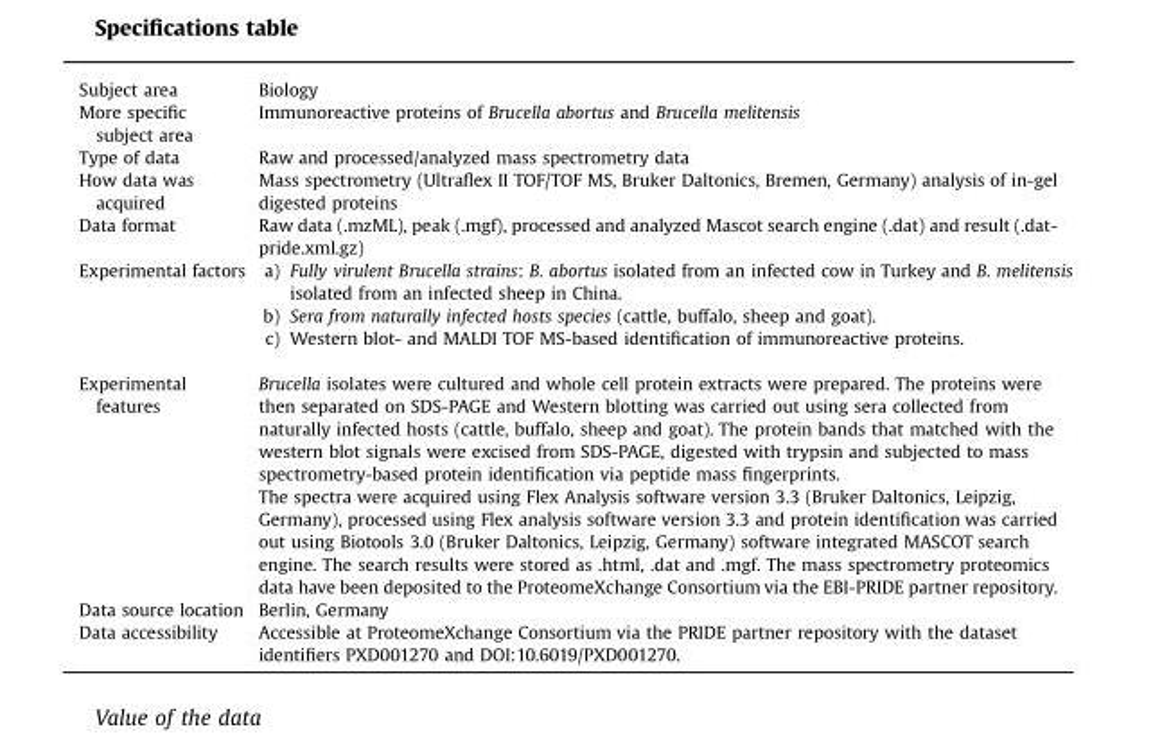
<table><tbody><tr><td>Subject area</td><td>Biology</td></tr><tr><td>More specific subject area</td><td>Immunoreactive proteins of Brucella abortus and Brucella melitensis</td></tr><tr><td>Type of data</td><td>Raw and processed/analyzed mass spectrometry data</td></tr><tr><td>How data was acquired</td><td>Mass spectrometry (Ultraflex II TOF/TOF MS, Bruker Daltonics, Bremen, Germany) analysis of in-gel digested proteins</td></tr><tr><td>Data format</td><td>Raw data (.mzML), peak (.mgf), processed and analyzed Mascot search engine (.dat) and result (.dat- pride.xml.gz)</td></tr><tr><td>Experimental factors</td><td>a) Fully virulent Brucella strains: B. abortus isolated from an infected cow in Turkey and B. melitensis isolated from an infected sheep in China. b) Sera from naturally infected hosts species (cattle, buffalo, sheep and goat). c) Western blot- and MALDI TOF MS-based identification of immunoreactive proteins.</td></tr><tr><td rowspan="2">Experimental features</td><td>Brucella isolates were cultured and whole cell protein extracts were prepared. The proteins were then separated on SDS-PAGE and Western blotting was carried out using sera collected from naturally infected hosts (cattle, buffalo, sheep and goat). The protein bands that matched with the western blot signals were excised from SDS-PAGE, digested with trypsin and subjected to mass spectrometry-based protein identification via peptide mass fingerprints.</td></tr><tr><td>The spectra were acquired using Flex Analysis software version 3.3 (Bruker Daltonics, Leipzig, Germany), processed using Flex analysis software version 3.3 and protein identification was carried out using Biotools 3.0 (Bruker Daltonics, Leipzig, Germany) software integrated MASCOT search engine. The search results were stored as .html, .dat and .mgf. The mass spectrometry proteomics data have been deposited to the ProteomeXchange Consortium via the EBI-PRIDE partner repository.</td></tr><tr><td>Data source location</td><td>Berlin, Germany</td></tr><tr><td>Data accessibility</td><td>Accessible at ProteomeXchange Consortium via the PRIDE partner repository with the dataset identifiers PXD001270 and DOI:10.6019/PXD001270.</td></tr></tbody></table>